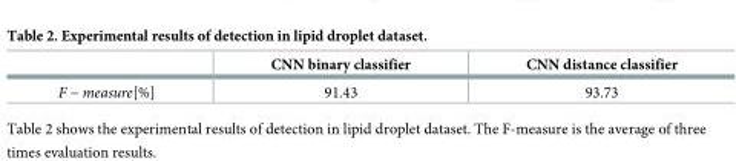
<table><thead><tr><td></td><td>CNN binary classifier</td><td>CNN distance classifier</td></tr></thead><tbody><tr><td>F − measure[%]</td><td>91.43</td><td>93.73</td></tr></tbody></table>